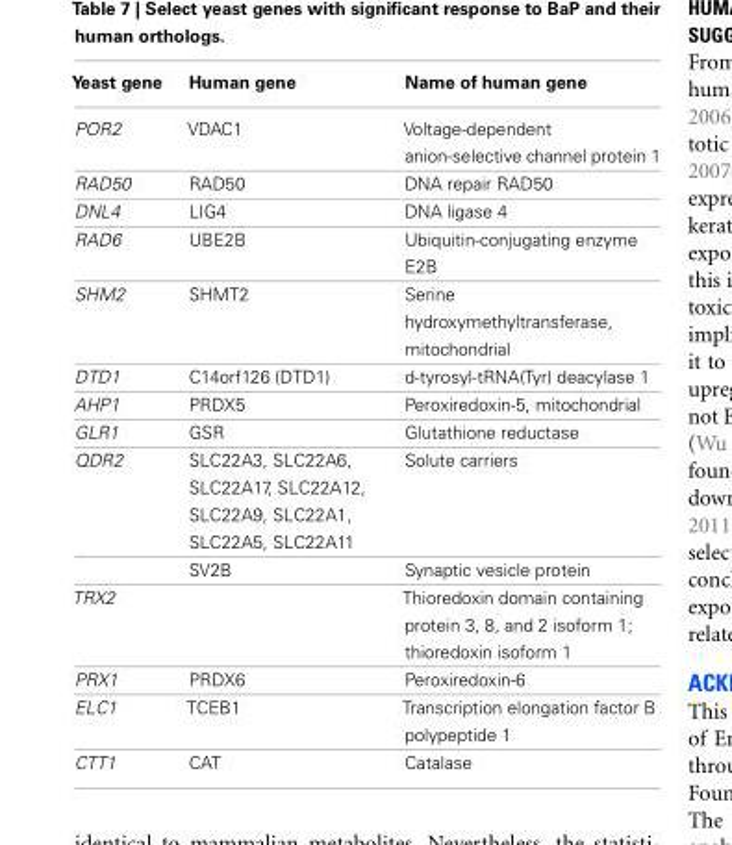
<table><thead><tr><td>Yeast gene</td><td>Human gene</td><td>Name of human gene</td></tr></thead><tbody><tr><td>POR2</td><td>VDAC1</td><td>Voltage-dependent anion-selective channel protein 1</td></tr><tr><td>RAD50</td><td>RAD50</td><td>DNA repair RAD50</td></tr><tr><td>DNL4</td><td>LIG4</td><td>DNA ligase 4</td></tr><tr><td>RAD6</td><td>UBE2B</td><td>Ubiquitin-conjugating enzyme E2B</td></tr><tr><td>SHM2</td><td>SHMT2</td><td>Serine hydroxymethyltransferase, mitochondrial</td></tr><tr><td>DTD1</td><td>C14orf126 (DTD1)</td><td>d-tyrosyl-tRNA(Tyr) deacylase 1</td></tr><tr><td>AHP1</td><td>PRDX5</td><td>Peroxiredoxin-5, mitochondrial</td></tr><tr><td>GLR1</td><td>GSR</td><td>Glutathione reductase</td></tr><tr><td rowspan="2">QDR2</td><td>SLC22A3, SLC22A6, SLC22A17, SLC22A12, SLC22A9, SLC22A1, SLC22A5, SLC22A11</td><td>Solute carriers</td></tr><tr><td>SV2B</td><td>Synaptic vesicle protein</td></tr><tr><td>TRX2</td><td></td><td>Thioredoxin domain containing protein 3, 8, and 2 isoform 1; thioredoxin isoform 1</td></tr><tr><td>PRX1</td><td>PRDX6</td><td>Peroxiredoxin-6</td></tr><tr><td>ELC1</td><td>TCEB1</td><td>Transcription elongation factor B polypeptide 1</td></tr><tr><td>CTT1</td><td>CAT</td><td>Catalase</td></tr></tbody></table>